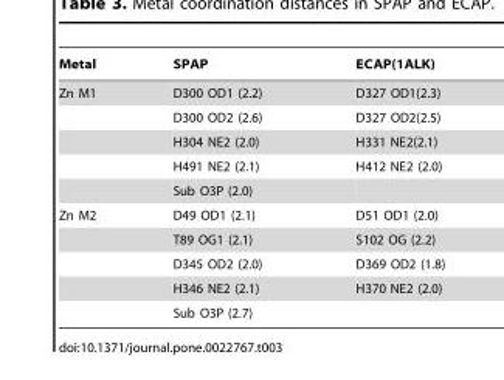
<table><thead><tr><td>Metal</td><td>SPAP</td><td>ECAP(1ALK)</td></tr></thead><tbody><tr><td rowspan="5">Zn M1</td><td>D300 OD1 (2.2)</td><td>D327 OD1(2.3)</td></tr><tr><td>D300 OD2 (2.6)</td><td>D327 OD2(2.5)</td></tr><tr><td>H304 NE2 (2.0)</td><td>H331 NE2(2.1)</td></tr><tr><td>H491 NE2 (2.1)</td><td>H412 NE2 (2.0)</td></tr><tr><td>Sub O3P (2.0)</td><td></td></tr><tr><td rowspan="5">Zn M2</td><td>D49 OD1 (2.1)</td><td>D51 OD1 (2.0)</td></tr><tr><td>T89 OG1 (2.1)</td><td>S102 OG (2.2)</td></tr><tr><td>D345 OD2 (2.0)</td><td>D369 OD2 (1.8)</td></tr><tr><td>H346 NE2 (2.1)</td><td>H370 NE2 (2.0)</td></tr><tr><td>Sub O3P (2.7)</td><td></td></tr></tbody></table>